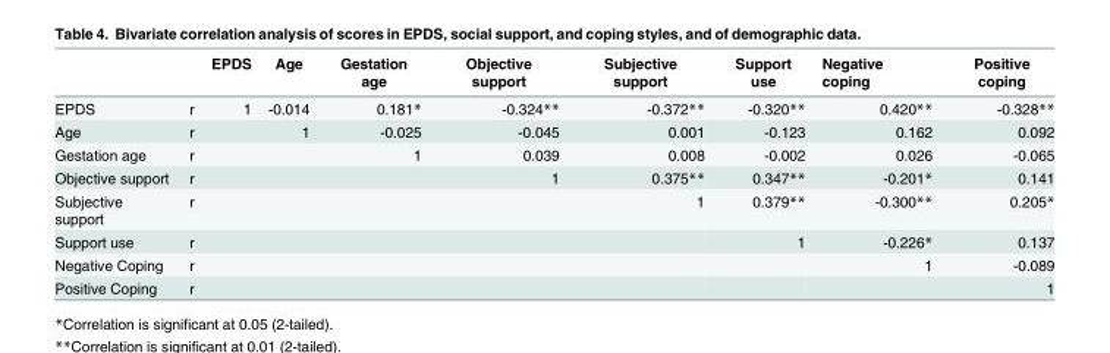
<table><thead><tr><td></td><td></td><td>EPDS</td><td>Age</td><td>Gestation age</td><td>Objective support</td><td>Subjective support</td><td>Support use</td><td>Negative coping</td><td>Positive coping</td></tr></thead><tbody><tr><td>EPDS</td><td>r</td><td>1</td><td>-0.014</td><td>0.181*</td><td>-0.324**</td><td>-0.372**</td><td>-0.320**</td><td>0.420**</td><td>-0.328**</td></tr><tr><td>Age</td><td>r</td><td></td><td>1</td><td>-0.025</td><td>-0.045</td><td>0.001</td><td>-0.123</td><td>0.162</td><td>0.092</td></tr><tr><td>Gestation age</td><td>r</td><td></td><td></td><td>1</td><td>0.039</td><td>0.008</td><td>-0.002</td><td>0.026</td><td>-0.065</td></tr><tr><td>Objective support</td><td>r</td><td></td><td></td><td></td><td>1</td><td>0.375**</td><td>0.347**</td><td>-0.201*</td><td>0.141</td></tr><tr><td>Subjective support</td><td>r</td><td></td><td></td><td></td><td></td><td>1</td><td>0.379**</td><td>-0.300**</td><td>0.205*</td></tr><tr><td>Support use</td><td>r</td><td></td><td></td><td></td><td></td><td></td><td>1</td><td>-0.226*</td><td>0.137</td></tr><tr><td>Negative Coping</td><td>r</td><td></td><td></td><td></td><td></td><td></td><td></td><td>1</td><td>-0.089</td></tr><tr><td>Positive Coping</td><td>r</td><td></td><td></td><td></td><td></td><td></td><td></td><td></td><td>1</td></tr></tbody></table>